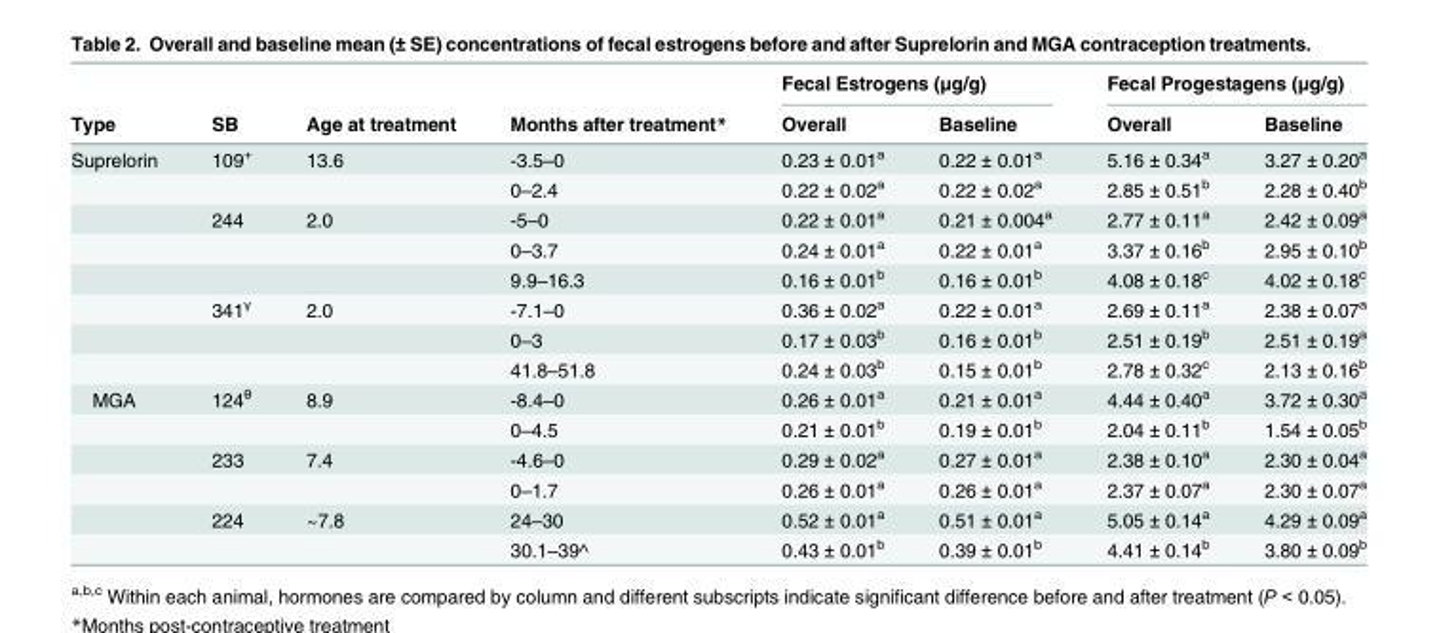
<table><thead><tr><td rowspan="2">Type</td><td rowspan="2">SB</td><td rowspan="2">Age at treatment</td><td rowspan="2">Months after treatment*</td><td colspan="2">Fecal Estrogens (μg/g)</td><td colspan="2">Fecal Progestagens (μg/g)</td></tr><tr><td>Overall</td><td>Baseline</td><td>Overall</td><td>Baseline</td></tr></thead><tbody><tr><td rowspan="8">Suprelorin</td><td>109<sup>+</sup></td><td>13.6</td><td>-3.5–0</td><td>0.23 ± 0.01<sup>a</sup></td><td>0.22 ± 0.01<sup>a</sup></td><td>5.16 ± 0.34<sup>a</sup></td><td>3.27 ± 0.20<sup>a</sup></td></tr><tr><td></td><td></td><td>0–2.4</td><td>0.22 ± 0.02<sup>a</sup></td><td>0.22 ± 0.02<sup>a</sup></td><td>2.85 ± 0.51<sup>b</sup></td><td>2.28 ± 0.40<sup>b</sup></td></tr><tr><td>244</td><td>2.0</td><td>-5–0</td><td>0.22 ± 0.01<sup>a</sup></td><td>0.21 ± 0.004<sup>a</sup></td><td>2.77 ± 0.11<sup>a</sup></td><td>2.42 ± 0.09<sup>a</sup></td></tr><tr><td></td><td></td><td>0–3.7</td><td>0.24 ± 0.01<sup>a</sup></td><td>0.22 ± 0.01<sup>a</sup></td><td>3.37 ± 0.16<sup>b</sup></td><td>2.95 ± 0.10<sup>b</sup></td></tr><tr><td></td><td></td><td>9.9–16.3</td><td>0.16 ± 0.01<sup>b</sup></td><td>0.16 ± 0.01<sup>b</sup></td><td>4.08 ± 0.18<sup>c</sup></td><td>4.02 ± 0.18<sup>c</sup></td></tr><tr><td>341γ</td><td>2.0</td><td>-7.1–0</td><td>0.36 ± 0.02<sup>a</sup></td><td>0.22 ± 0.01<sup>a</sup></td><td>2.69 ± 0.11<sup>a</sup></td><td>2.38 ± 0.07<sup>a</sup></td></tr><tr><td></td><td></td><td>0–3</td><td>0.17 ± 0.03<sup>b</sup></td><td>0.16 ± 0.01<sup>b</sup></td><td>2.51 ± 0.19<sup>b</sup></td><td>2.51 ± 0.19<sup>a</sup></td></tr><tr><td></td><td></td><td>41.8–51.8</td><td>0.24 ± 0.03<sup>b</sup></td><td>0.15 ± 0.01<sup>b</sup></td><td>2.78 ± 0.32<sup>c</sup></td><td>2.13 ± 0.16<sup>b</sup></td></tr><tr><td rowspan="6">MGA</td><td>124<sup>θ</sup></td><td>8.9</td><td>-8.4–0</td><td>0.26 ± 0.01<sup>a</sup></td><td>0.21 ± 0.01<sup>a</sup></td><td>4.44 ± 0.40<sup>a</sup></td><td>3.72 ± 0.30<sup>a</sup></td></tr><tr><td></td><td></td><td>0–4.5</td><td>0.21 ± 0.01<sup>b</sup></td><td>0.19 ± 0.01<sup>b</sup></td><td>2.04 ± 0.11<sup>b</sup></td><td>1.54 ± 0.05<sup>b</sup></td></tr><tr><td>233</td><td>7.4</td><td>-4.6–0</td><td>0.29 ± 0.02<sup>a</sup></td><td>0.27 ± 0.01<sup>a</sup></td><td>2.38 ± 0.10<sup>a</sup></td><td>2.30 ± 0.04<sup>a</sup></td></tr><tr><td></td><td></td><td>0–1.7</td><td>0.26 ± 0.01<sup>a</sup></td><td>0.26 ± 0.01<sup>a</sup></td><td>2.37 ± 0.07<sup>a</sup></td><td>2.30 ± 0.07<sup>a</sup></td></tr><tr><td>224</td><td>~7.8</td><td>24–30</td><td>0.52 ± 0.01<sup>a</sup></td><td>0.51 ± 0.01<sup>a</sup></td><td>5.05 ± 0.14<sup>a</sup></td><td>4.29 ± 0.09<sup>a</sup></td></tr><tr><td></td><td></td><td>30.1–39^</td><td>0.43 ± 0.01<sup>b</sup></td><td>0.39 ± 0.01<sup>b</sup></td><td>4.41 ± 0.14<sup>b</sup></td><td>3.80 ± 0.09<sup>b</sup></td></tr></tbody></table>